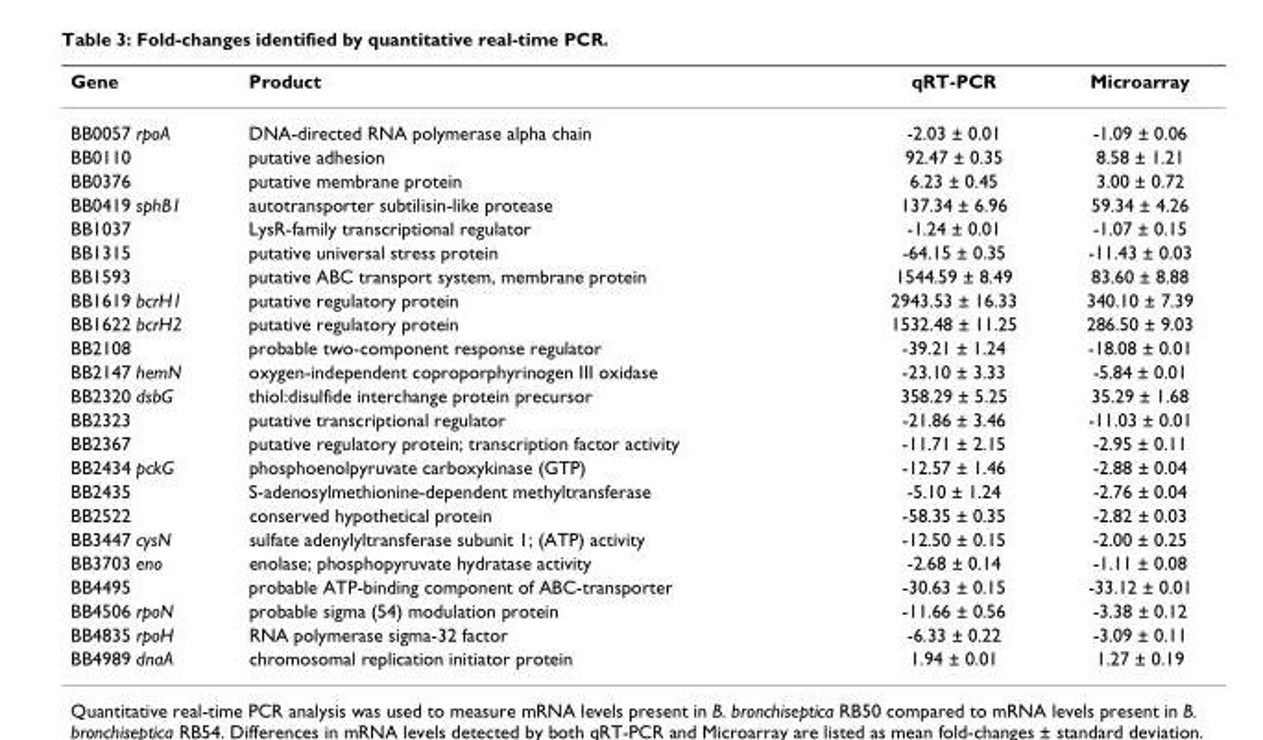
<table><thead><tr><td>Gene</td><td>Product</td><td>qRT-PCR</td><td>Microarray</td></tr></thead><tbody><tr><td>BB0057 rpoA</td><td>DNA-directed RNA polymerase alpha chain</td><td>-2.03 ± 0.01</td><td>-1.09 ± 0.06</td></tr><tr><td>BB0110</td><td>putative adhesion</td><td>92.47 ± 0.35</td><td>8.58 ± 1.21</td></tr><tr><td>BB0376</td><td>putative membrane protein</td><td>6.23 ± 0.45</td><td>3.00 ± 0.72</td></tr><tr><td>BB0419 sphB1</td><td>autotransporter subtilisin-like protease</td><td>137.34 ± 6.96</td><td>59.34 ± 4.26</td></tr><tr><td>BB1037</td><td>LysR-family transcriptional regulator</td><td>-1.24 ± 0.01</td><td>-1.07 ± 0.15</td></tr><tr><td>BB1315</td><td>putative universal stress protein</td><td>-64.15 ± 0.35</td><td>-11.43 ± 0.03</td></tr><tr><td>BB1593</td><td>putative ABC transport system, membrane protein</td><td>1544.59 ± 8.49</td><td>83.60 ± 8.88</td></tr><tr><td>BB1619 bcrH1</td><td>putative regulatory protein</td><td>2943.53 ± 16.33</td><td>340.10 ± 7.39</td></tr><tr><td>BB1622 bcrH2</td><td>putative regulatory protein</td><td>1532.48 ± 11.25</td><td>286.50 ± 9.03</td></tr><tr><td>BB2108</td><td>probable two-component response regulator</td><td>-39.21 ± 1.24</td><td>-18.08 ± 0.01</td></tr><tr><td>BB2147 hemN</td><td>oxygen-independent coproporphyrinogen III oxidase</td><td>-23.10 ± 3.33</td><td>-5.84 ± 0.01</td></tr><tr><td>BB2320 dsbG</td><td>thiol:disulfide interchange protein precursor</td><td>358.29 ± 5.25</td><td>35.29 ± 1.68</td></tr><tr><td>BB2323</td><td>putative transcriptional regulator</td><td>-21.86 ± 3.46</td><td>-11.03 ± 0.01</td></tr><tr><td>BB2367</td><td>putative regulatory protein; transcription factor activity</td><td>-11.71 ± 2.15</td><td>-2.95 ± 0.11</td></tr><tr><td>BB2434 pckG</td><td>phosphoenolpyruvate carboxykinase (GTP)</td><td>-12.57 ± 1.46</td><td>-2.88 ± 0.04</td></tr><tr><td>BB2435</td><td>S-adenosylmethionine-dependent methyltransferase</td><td>-5.10 ± 1.24</td><td>-2.76 ± 0.04</td></tr><tr><td>BB2522</td><td>conserved hypothetical protein</td><td>-58.35 ± 0.35</td><td>-2.82 ± 0.03</td></tr><tr><td>BB3447 cysN</td><td>sulfate adenylyltransferase subunit 1; (ATP) activity</td><td>-12.50 ± 0.15</td><td>-2.00 ± 0.25</td></tr><tr><td>BB3703 eno</td><td>enolase; phosphopyruvate hydratase activity</td><td>-2.68 ± 0.14</td><td>-1.11 ± 0.08</td></tr><tr><td>BB4495</td><td>probable ATP-binding component of ABC-transporter</td><td>-30.63 ± 0.15</td><td>-33.12 ± 0.01</td></tr><tr><td>BB4506 rpoN</td><td>probable sigma (54) modulation protein</td><td>-11.66 ± 0.56</td><td>-3.38 ± 0.12</td></tr><tr><td>BB4835 rpoH</td><td>RNA polymerase sigma-32 factor</td><td>-6.33 ± 0.22</td><td>-3.09 ± 0.11</td></tr><tr><td>BB4989 dnaA</td><td>chromosomal replication initiator protein</td><td>1.94 ± 0.01</td><td>1.27 ± 0.19</td></tr></tbody></table>